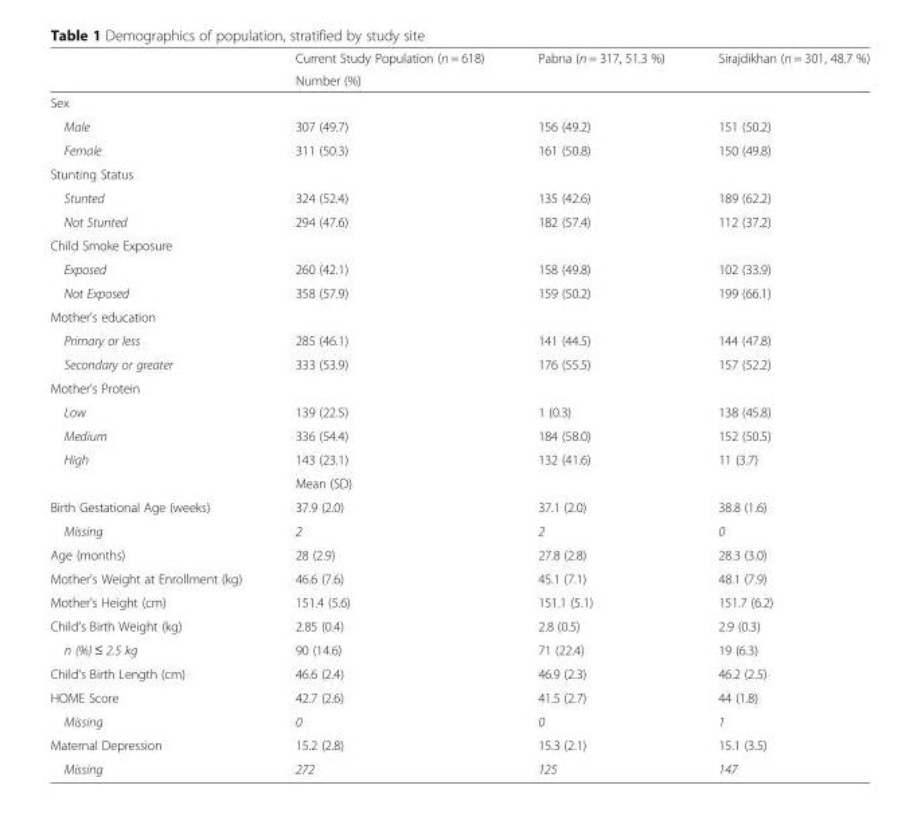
<table><thead><tr><td rowspan="2"></td><td>Current Study Population (n = 618)</td><td>Pabna (n = 317, 51.3 %)</td><td>Sirajdikhan (n = 301, 48.7 %)</td></tr><tr><td colspan="3">Number (%)</td></tr></thead><tbody><tr><td colspan="4">Sex</td></tr><tr><td>Male</td><td>307 (49.7)</td><td>156 (49.2)</td><td>151 (50.2)</td></tr><tr><td>Female</td><td>311 (50.3)</td><td>161 (50.8)</td><td>150 (49.8)</td></tr><tr><td colspan="4">Stunting Status</td></tr><tr><td>Stunted</td><td>324 (52.4)</td><td>135 (42.6)</td><td>189 (62.2)</td></tr><tr><td>Not Stunted</td><td>294 (47.6)</td><td>182 (57.4)</td><td>112 (37.2)</td></tr><tr><td colspan="4">Child Smoke Exposure</td></tr><tr><td>Exposed</td><td>260 (42.1)</td><td>158 (49.8)</td><td>102 (33.9)</td></tr><tr><td>Not Exposed</td><td>358 (57.9)</td><td>159 (50.2)</td><td>199 (66.1)</td></tr><tr><td colspan="4">Mother&#x27;s education</td></tr><tr><td>Primary or less</td><td>285 (46.1)</td><td>141 (44.5)</td><td>144 (47.8)</td></tr><tr><td>Secondary or greater</td><td>333 (53.9)</td><td>176 (55.5)</td><td>157 (52.2)</td></tr><tr><td colspan="4">Mother&#x27;s Protein</td></tr><tr><td>Low</td><td>139 (22.5)</td><td>1 (0.3)</td><td>138 (45.8)</td></tr><tr><td>Medium</td><td>336 (54.4)</td><td>184 (58.0)</td><td>152 (50.5)</td></tr><tr><td rowspan="2">High</td><td>143 (23.1)</td><td>132 (41.6)</td><td>11 (3.7)</td></tr><tr><td colspan="3">Mean (SD)</td></tr><tr><td>Birth Gestational Age (weeks)</td><td>37.9 (2.0)</td><td>37.1 (2.0)</td><td>38.8 (1.6)</td></tr><tr><td>Missing</td><td>2</td><td>2</td><td>0</td></tr><tr><td>Age (months)</td><td>28 (2.9)</td><td>27.8 (2.8)</td><td>28.3 (3.0)</td></tr><tr><td>Mother&#x27;s Weight at Enrollment (kg)</td><td>46.6 (7.6)</td><td>45.1 (7.1)</td><td>48.1 (7.9)</td></tr><tr><td>Mother&#x27;s Height (cm)</td><td>151.4 (5.6)</td><td>151.1 (5.1)</td><td>151.7 (6.2)</td></tr><tr><td>Child&#x27;s Birth Weight (kg)</td><td>2.85 (0.4)</td><td>2.8 (0.5)</td><td>2.9 (0.3)</td></tr><tr><td>n (%) ≤ 2.5 kg</td><td>90 (14.6)</td><td>71 (22.4)</td><td>19 (6.3)</td></tr><tr><td>Child&#x27;s Birth Length (cm)</td><td>46.6 (2.4)</td><td>46.9 (2.3)</td><td>46.2 (2.5)</td></tr><tr><td>HOME Score</td><td>42.7 (2.6)</td><td>41.5 (2.7)</td><td>44 (1.8)</td></tr><tr><td>Missing</td><td>0</td><td>0</td><td>1</td></tr><tr><td>Maternal Depression</td><td>15.2 (2.8)</td><td>15.3 (2.1)</td><td>15.1 (3.5)</td></tr><tr><td>Missing</td><td>272</td><td>125</td><td>147</td></tr></tbody></table>